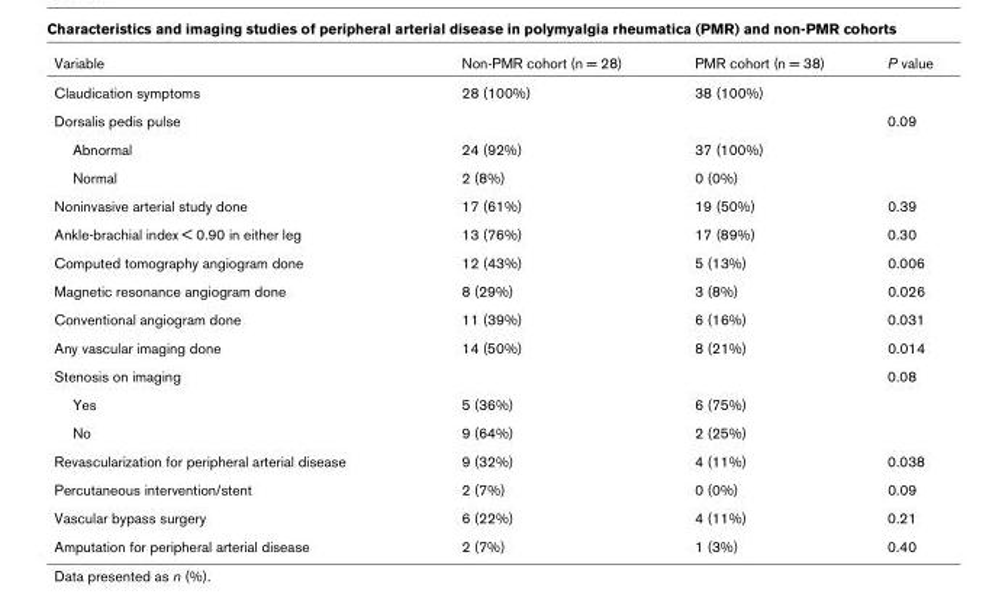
<table><thead><tr><td>Variable</td><td>Non-PMR cohort (n = 28)</td><td>PMR cohort (n = 38)</td><td>P value</td></tr></thead><tbody><tr><td>Claudication symptoms</td><td>28 (100%)</td><td>38 (100%)</td><td></td></tr><tr><td>Dorsalis pedis pulse</td><td></td><td></td><td>0.09</td></tr><tr><td>Abnormal</td><td>24 (92%)</td><td>37 (100%)</td><td></td></tr><tr><td>Normal</td><td>2 (8%)</td><td>0 (0%)</td><td></td></tr><tr><td>Noninvasive arterial study done</td><td>17 (61%)</td><td>19 (50%)</td><td>0.39</td></tr><tr><td>Ankle-brachial index &lt; 0.90 in either leg</td><td>13 (76%)</td><td>17 (89%)</td><td>0.30</td></tr><tr><td>Computed tomography angiogram done</td><td>12 (43%)</td><td>5 (13%)</td><td>0.006</td></tr><tr><td>Magnetic resonance angiogram done</td><td>8 (29%)</td><td>3 (8%)</td><td>0.026</td></tr><tr><td>Conventional angiogram done</td><td>11 (39%)</td><td>6 (16%)</td><td>0.031</td></tr><tr><td>Any vascular imaging done</td><td>14 (50%)</td><td>8 (21%)</td><td>0.014</td></tr><tr><td>Stenosis on imaging</td><td></td><td></td><td>0.08</td></tr><tr><td>Yes</td><td>5 (36%)</td><td>6 (75%)</td><td></td></tr><tr><td>No</td><td>9 (64%)</td><td>2 (25%)</td><td></td></tr><tr><td>Revascularization for peripheral arterial disease</td><td>9 (32%)</td><td>4 (11%)</td><td>0.038</td></tr><tr><td>Percutaneous intervention/stent</td><td>2 (7%)</td><td>0 (0%)</td><td>0.09</td></tr><tr><td>Vascular bypass surgery</td><td>6 (22%)</td><td>4 (11%)</td><td>0.21</td></tr><tr><td>Amputation for peripheral arterial disease</td><td>2 (7%)</td><td>1 (3%)</td><td>0.40</td></tr></tbody></table>